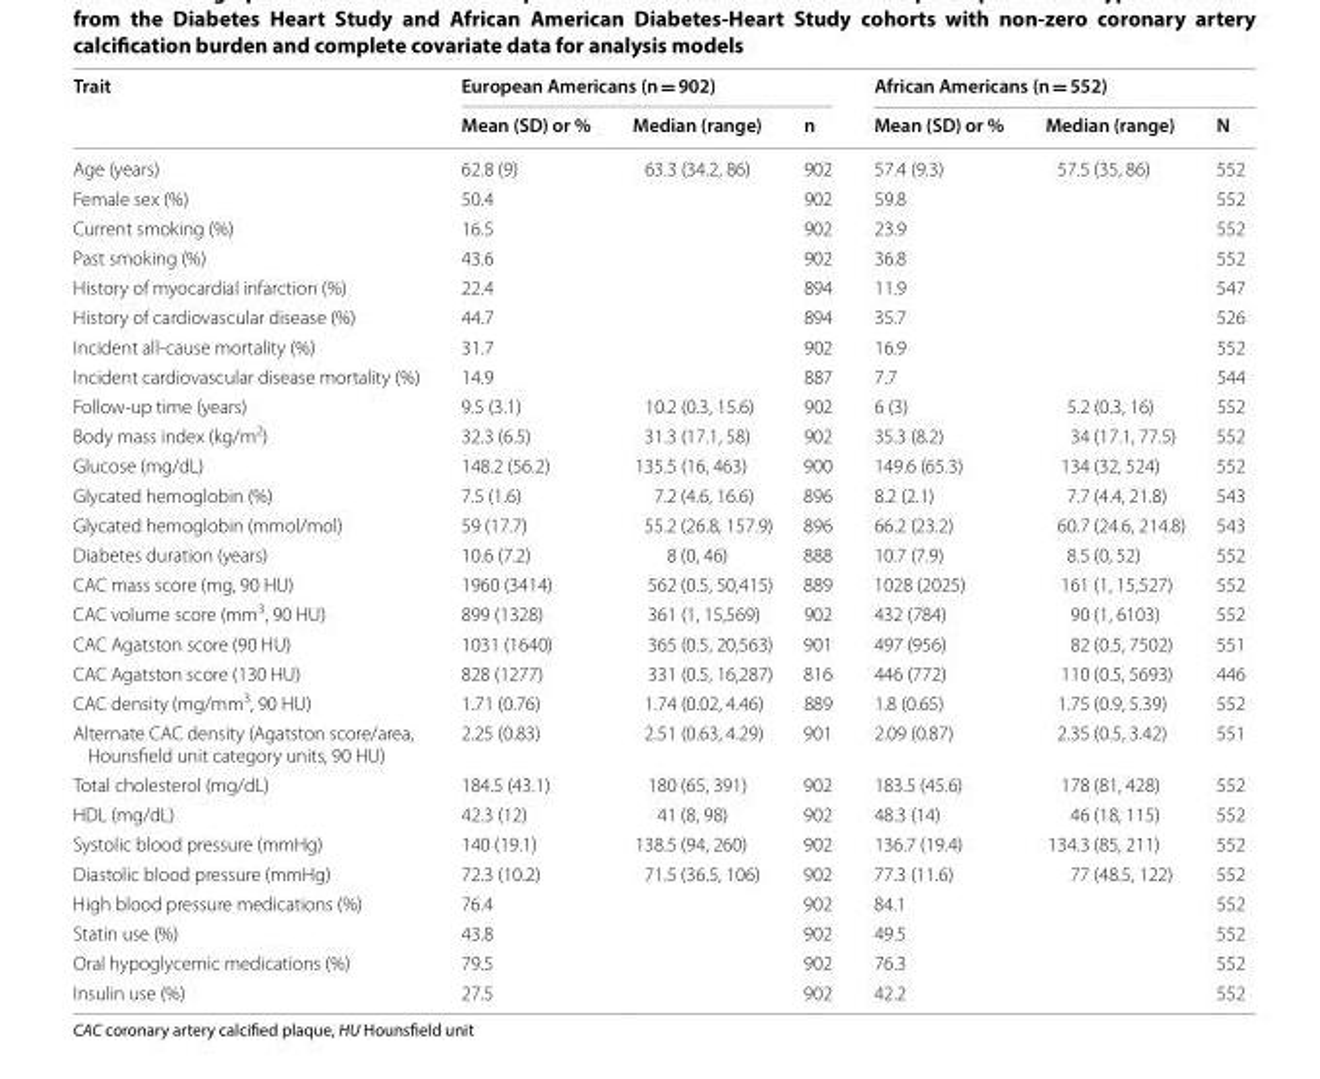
<table><thead><tr><td rowspan="2">Trait</td><td colspan="3">European Americans (n = 902)</td><td colspan="3">African Americans (n = 552)</td></tr><tr><td>Mean (SD) or %</td><td>Median (range)</td><td>n</td><td>Mean (SD) or %</td><td>Median (range)</td><td>N</td></tr></thead><tbody><tr><td>Age (years)</td><td>62.8 (9)</td><td>63.3 (34.2, 86)</td><td>902</td><td>57.4 (9.3)</td><td>57.5 (35, 86)</td><td>552</td></tr><tr><td>Female sex (%)</td><td>50.4</td><td></td><td>902</td><td>59.8</td><td></td><td>552</td></tr><tr><td>Current smoking (%)</td><td>16.5</td><td></td><td>902</td><td>23.9</td><td></td><td>552</td></tr><tr><td>Past smoking (%)</td><td>43.6</td><td></td><td>902</td><td>36.8</td><td></td><td>552</td></tr><tr><td>History of myocardial infarction (%)</td><td>22.4</td><td></td><td>894</td><td>11.9</td><td></td><td>547</td></tr><tr><td>History of cardiovascular disease (%)</td><td>44.7</td><td></td><td>894</td><td>35.7</td><td></td><td>526</td></tr><tr><td>Incident all‑cause mortality (%)</td><td>31.7</td><td></td><td>902</td><td>16.9</td><td></td><td>552</td></tr><tr><td>Incident cardiovascular disease mortality (%)</td><td>14.9</td><td></td><td>887</td><td>7.7</td><td></td><td>544</td></tr><tr><td>Follow‑up time (years)</td><td>9.5 (3.1)</td><td>10.2 (0.3, 15.6)</td><td>902</td><td>6 (3)</td><td>5.2 (0.3, 16)</td><td>552</td></tr><tr><td>Body mass index (kg/m<sup>2</sup>)</td><td>32.3 (6.5)</td><td>31.3 (17.1, 58)</td><td>902</td><td>35.3 (8.2)</td><td>34 (17.1, 77.5)</td><td>552</td></tr><tr><td>Glucose (mg/dL)</td><td>148.2 (56.2)</td><td>135.5 (16, 463)</td><td>900</td><td>149.6 (65.3)</td><td>134 (32, 524)</td><td>552</td></tr><tr><td>Glycated hemoglobin (%)</td><td>7.5 (1.6)</td><td>7.2 (4.6, 16.6)</td><td>896</td><td>8.2 (2.1)</td><td>7.7 (4.4, 21.8)</td><td>543</td></tr><tr><td>Glycated hemoglobin (mmol/mol)</td><td>59 (17.7)</td><td>55.2 (26.8, 157.9)</td><td>896</td><td>66.2 (23.2)</td><td>60.7 (24.6, 214.8)</td><td>543</td></tr><tr><td>Diabetes duration (years)</td><td>10.6 (7.2)</td><td>8 (0, 46)</td><td>888</td><td>10.7 (7.9)</td><td>8.5 (0, 52)</td><td>552</td></tr><tr><td>CAC mass score (mg, 90 HU)</td><td>1960 (3414)</td><td>562 (0.5, 50,415)</td><td>889</td><td>1028 (2025)</td><td>161 (1, 15,527)</td><td>552</td></tr><tr><td>CAC volume score (mm<sup>3</sup>, 90 HU)</td><td>899 (1328)</td><td>361 (1, 15,569)</td><td>902</td><td>432 (784)</td><td>90 (1, 6103)</td><td>552</td></tr><tr><td>CAC Agatston score (90 HU)</td><td>1031 (1640)</td><td>365 (0.5, 20,563)</td><td>901</td><td>497 (956)</td><td>82 (0.5, 7502)</td><td>551</td></tr><tr><td>CAC Agatston score (130 HU)</td><td>828 (1277)</td><td>331 (0.5, 16,287)</td><td>816</td><td>446 (772)</td><td>110 (0.5, 5693)</td><td>446</td></tr><tr><td>CAC density (mg/mm<sup>3</sup>, 90 HU)</td><td>1.71 (0.76)</td><td>1.74 (0.02, 4.46)</td><td>889</td><td>1.8 (0.65)</td><td>1.75 (0.9, 5.39)</td><td>552</td></tr><tr><td>Alternate CAC density (Agatston score/area, Hounsfield unit category units, 90 HU)</td><td>2.25 (0.83)</td><td>2.51 (0.63, 4.29)</td><td>901</td><td>2.09 (0.87)</td><td>2.35 (0.5, 3.42)</td><td>551</td></tr><tr><td>Total cholesterol (mg/dL)</td><td>184.5 (43.1)</td><td>180 (65, 391)</td><td>902</td><td>183.5 (45.6)</td><td>178 (81, 428)</td><td>552</td></tr><tr><td>HDL (mg/dL)</td><td>42.3 (12)</td><td>41 (8, 98)</td><td>902</td><td>48.3 (14)</td><td>46 (18, 115)</td><td>552</td></tr><tr><td>Systolic blood pressure (mmHg)</td><td>140 (19.1)</td><td>138.5 (94, 260)</td><td>902</td><td>136.7 (19.4)</td><td>134.3 (85, 211)</td><td>552</td></tr><tr><td>Diastolic blood pressure (mmHg)</td><td>72.3 (10.2)</td><td>71.5 (36.5, 106)</td><td>902</td><td>77.3 (11.6)</td><td>77 (48.5, 122)</td><td>552</td></tr><tr><td>High blood pressure medications (%)</td><td>76.4</td><td></td><td>902</td><td>84.1</td><td></td><td>552</td></tr><tr><td>Statin use (%)</td><td>43.8</td><td></td><td>902</td><td>49.5</td><td></td><td>552</td></tr><tr><td>Oral hypoglycemic medications (%)</td><td>79.5</td><td></td><td>902</td><td>76.3</td><td></td><td>552</td></tr><tr><td>Insulin use (%)</td><td>27.5</td><td></td><td>902</td><td>42.2</td><td></td><td>552</td></tr></tbody></table>